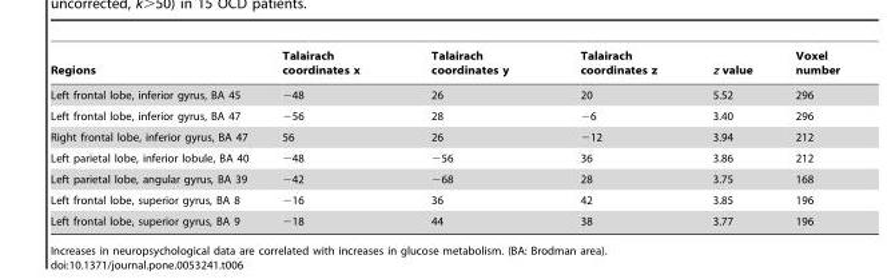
<table><thead><tr><td>Regions</td><td>Talairach coordinates x</td><td>Talairach coordinates y</td><td>Talairach coordinates z</td><td>z value</td><td>Voxel number</td></tr></thead><tbody><tr><td>Left frontal lobe, inferior gyrus, BA 45</td><td>−48</td><td>26</td><td>20</td><td>5.52</td><td>296</td></tr><tr><td>Left frontal lobe, inferior gyrus, BA 47</td><td>−56</td><td>28</td><td>−6</td><td>3.40</td><td>296</td></tr><tr><td>Right frontal lobe, inferior gyrus, BA 47</td><td>56</td><td>26</td><td>−12</td><td>3.94</td><td>212</td></tr><tr><td>Left parietal lobe, inferior lobule, BA 40</td><td>−48</td><td>−56</td><td>36</td><td>3.86</td><td>212</td></tr><tr><td>Left parietal lobe, angular gyrus, BA 39</td><td>−42</td><td>−68</td><td>28</td><td>3.75</td><td>168</td></tr><tr><td>Left frontal lobe, superior gyrus, BA 8</td><td>−16</td><td>36</td><td>42</td><td>3.85</td><td>196</td></tr><tr><td>Left frontal lobe, superior gyrus, BA 9</td><td>−18</td><td>44</td><td>38</td><td>3.77</td><td>196</td></tr></tbody></table>